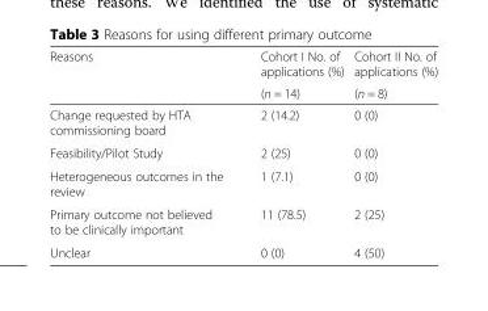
<table><thead><tr><td rowspan="2">Reasons</td><td rowspan="2">Cohort I No. of applications (%) (n = 14)</td><td rowspan="2">Cohort II No. of applications (%) (n = 8)</td></tr><tr></tr></thead><tbody><tr><td>Change requested by HTA commissioning board</td><td>2 (14.2)</td><td>0 (0)</td></tr><tr><td>Feasibility/Pilot Study</td><td>2 (25)</td><td>0 (0)</td></tr><tr><td>Heterogeneous outcomes in the review</td><td>1 (7.1)</td><td>0 (0)</td></tr><tr><td>Primary outcome not believed to be clinically important</td><td>11 (78.5)</td><td>2 (25)</td></tr><tr><td>Unclear</td><td>0 (0)</td><td>4 (50)</td></tr></tbody></table>